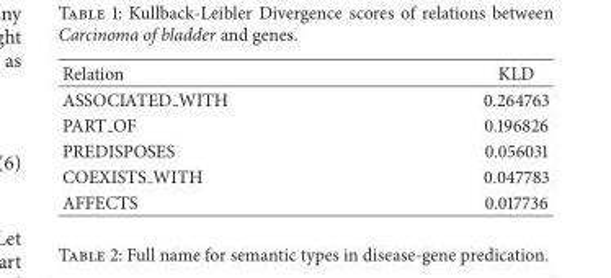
<table><thead><tr><td>Relation</td><td>KLD</td></tr></thead><tbody><tr><td>ASSOCIATED WITH</td><td>0.264763</td></tr><tr><td>PART OF</td><td>0.196826</td></tr><tr><td>PREDISPOSES</td><td>0.056031</td></tr><tr><td>COEXISTS WITH</td><td>0.047783</td></tr><tr><td>AFFECTS</td><td>0.017736</td></tr></tbody></table>